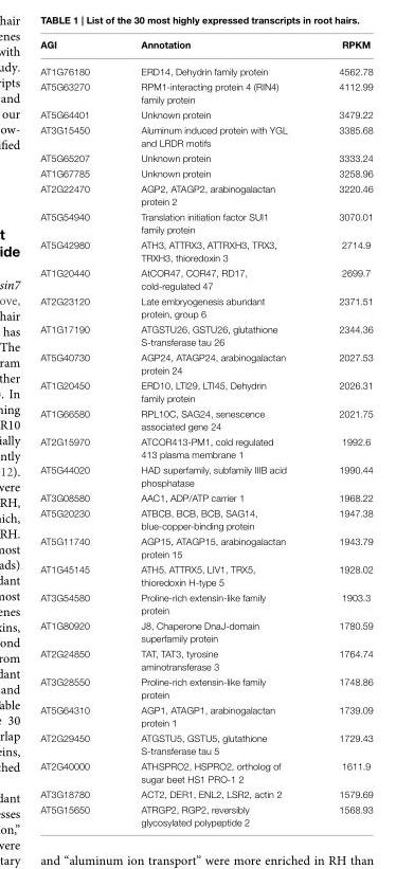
<table><thead><tr><td>AGI</td><td>Annotation</td><td>RPKM</td></tr></thead><tbody><tr><td>AT1G76180</td><td>ERD14, Dehydrin family protein</td><td>4562.78</td></tr><tr><td>AT5G63270</td><td>RPM1-interacting protein 4 (RIN4) family protein</td><td>4112.99</td></tr><tr><td>AT5G64401</td><td>Unknown protein</td><td>3479.22</td></tr><tr><td>AT3G15450</td><td>Aluminum induced protein with YGL and LRDR motifs</td><td>3385.68</td></tr><tr><td>AT5G65207</td><td>Unknown protein</td><td>3333.24</td></tr><tr><td>AT1G67785</td><td>Unknown protein</td><td>3258.96</td></tr><tr><td>AT2G22470</td><td>AGP2, ATAGP2, arabinogalactan protein 2</td><td>3220.46</td></tr><tr><td>AT5G54940</td><td>Translation initiation factor SUI1 family protein</td><td>3070.01</td></tr><tr><td>AT5G42980</td><td>ATH3, ATTRX3, ATTRXH3, TRX3, TRXH3, thioredoxin 3</td><td>2714.9</td></tr><tr><td>AT1G20440</td><td>AtCOR47, COR47, RD17, cold-regulated 47</td><td>2699.7</td></tr><tr><td>AT2G23120</td><td>Late embryogenesis abundant protein, group 6</td><td>2371.51</td></tr><tr><td>AT1G17190</td><td>ATGSTU26, GSTU26, glutathione S-transferase tau 26</td><td>2344.36</td></tr><tr><td>AT5G40730</td><td>AGP24, ATAGP24, arabinogalactan protein 24</td><td>2027.53</td></tr><tr><td>AT1G20450</td><td>ERD10, LTI29, LTI45, Dehydrin family protein</td><td>2026.31</td></tr><tr><td>AT1G66580</td><td>RPL10C, SAG24, senescence associated gene 24</td><td>2021.75</td></tr><tr><td>AT2G15970</td><td>ATCOR413-PM1, cold regulated 413 plasma membrane 1</td><td>1992.6</td></tr><tr><td>AT5G44020</td><td>HAD superfamily, subfamily IIIB acid phosphatase</td><td>1990.44</td></tr><tr><td>AT3G08580</td><td>AAC1, ADP/ATP carrier 1</td><td>1968.22</td></tr><tr><td>AT5G20230</td><td>ATBCB, BCB, BCB, SAG14, blue-copper-binding protein</td><td>1947.38</td></tr><tr><td>AT5G11740</td><td>AGP15, ATAGP15, arabinogalactan protein 15</td><td>1943.79</td></tr><tr><td>AT1G45145</td><td>ATH5, ATTRX5, LIV1, TRX5, thioredoxin H-type 5</td><td>1928.02</td></tr><tr><td>AT3G54580</td><td>Proline-rich extensin-like family protein</td><td>1903.3</td></tr><tr><td>AT1G80920</td><td>J8, Chaperone DnaJ-domain superfamily protein</td><td>1780.59</td></tr><tr><td>AT2G24850</td><td>TAT, TAT3, tyrosine aminotransferase 3</td><td>1764.74</td></tr><tr><td>AT3G28550</td><td>Proline-rich extensin-like family protein</td><td>1748.86</td></tr><tr><td>AT5G64310</td><td>AGP1, ATAGP1, arabinogalactan protein 1</td><td>1739.09</td></tr><tr><td>AT2G29450</td><td>ATGSTU5, GSTU5, glutathione S-transferase tau 5</td><td>1729.43</td></tr><tr><td>AT2G40000</td><td>ATHSPRO2, HSPRO2, ortholog of sugar beet HS1 PRO-1 2</td><td>1611.9</td></tr><tr><td>AT3G18780</td><td>ACT2, DER1, ENL2, LSR2, actin 2</td><td>1579.69</td></tr><tr><td>AT5G15650</td><td>ATRGP2, RGP2, reversibly glycosylated polypeptide 2</td><td>1568.93</td></tr></tbody></table>